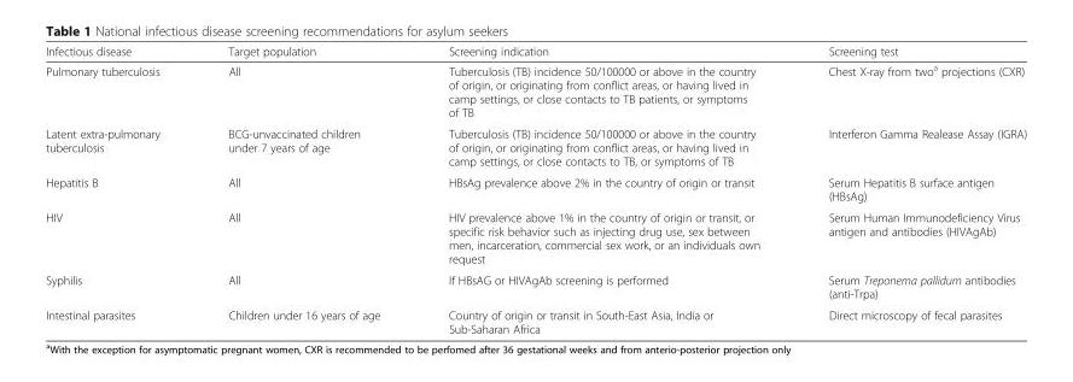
<table><thead><tr><td>Infectious disease</td><td>Target population</td><td>Screening indication</td><td>Screening test</td></tr></thead><tbody><tr><td>Pulmonary tuberculosis</td><td>All</td><td>Tuberculosis (TB) incidence 50/100000 or above in the country of origin, or originating from conflict areas, or having lived in camp settings, or close contacts to TB patients, or symptoms of TB</td><td>Chest X-ray from two<sup>a</sup> projections (CXR)</td></tr><tr><td>Latent extra-pulmonary tuberculosis</td><td>BCG-unvaccinated children under 7 years of age</td><td>Tuberculosis (TB) incidence 50/100000 or above in the country of origin, or originating from conflict areas, or having lived in camp settings, or close contacts to TB, or symptoms of TB</td><td>Interferon Gamma Realease Assay (IGRA)</td></tr><tr><td>Hepatitis B</td><td>All</td><td>HBsAg prevalence above 2% in the country of origin or transit</td><td>Serum Hepatitis B surface antigen (HBsAg)</td></tr><tr><td>HIV</td><td>All</td><td>HIV prevalence above 1% in the country of origin or transit, or specific risk behavior such as injecting drug use, sex between men, incarceration, commercial sex work, or an individuals own request</td><td>Serum Human Immunodeficiency Virus antigen and antibodies (HIVAgAb)</td></tr><tr><td>Syphilis</td><td>All</td><td>If HBsAG or HIVAgAb screening is performed</td><td>Serum Treponema pallidum antibodies (anti-Trpa)</td></tr><tr><td>Intestinal parasites</td><td>Children under 16 years of age</td><td>Country of origin or transit in South-East Asia, India or Sub-Saharan Africa</td><td>Direct microscopy of fecal parasites</td></tr></tbody></table>